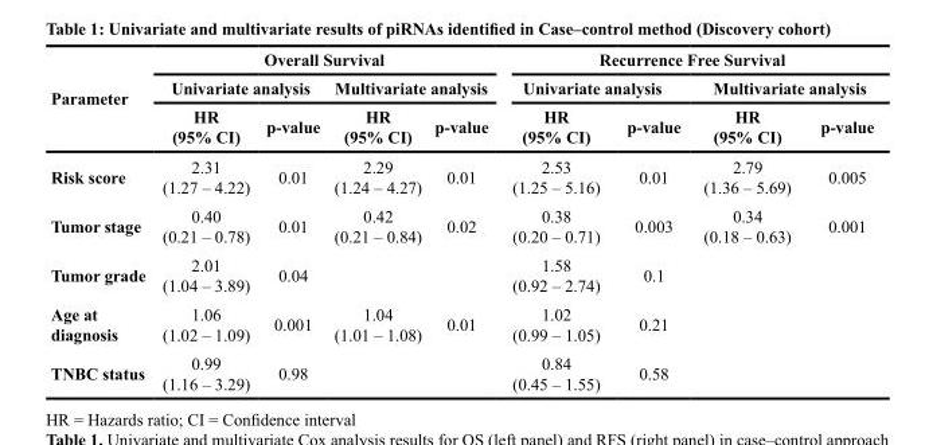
<table><thead><tr><td rowspan="3">Parameter</td><td colspan="4">Overall Survival</td><td colspan="4">Recurrence Free Survival</td></tr><tr><td colspan="2">Univariate analysis</td><td colspan="2">Multivariate analysis</td><td colspan="2">Univariate analysis</td><td colspan="2">Multivariate analysis</td></tr><tr><td>HR (95% CI)</td><td>p-value</td><td>HR (95% CI)</td><td>p-value</td><td>HR (95% CI)</td><td>p-value</td><td>HR (95% CI)</td><td>p-value</td></tr></thead><tbody><tr><td>Risk score</td><td>2.31 (1.27 – 4.22)</td><td>0.01</td><td>2.29 (1.24 – 4.27)</td><td>0.01</td><td>2.53 (1.25 – 5.16)</td><td>0.01</td><td>2.79 (1.36 – 5.69)</td><td>0.005</td></tr><tr><td>Tumor stage</td><td>0.40 (0.21 – 0.78)</td><td>0.01</td><td>0.42 (0.21 – 0.84)</td><td>0.02</td><td>0.38 (0.20 – 0.71)</td><td>0.003</td><td>0.34 (0.18 – 0.63)</td><td>0.001</td></tr><tr><td>Tumor grade</td><td>2.01 (1.04 – 3.89)</td><td>0.04</td><td></td><td></td><td>1.58 (0.92 – 2.74)</td><td>0.1</td><td></td><td></td></tr><tr><td>Age at diagnosis</td><td>1.06 (1.02 – 1.09)</td><td>0.001</td><td>1.04 (1.01 – 1.08)</td><td>0.01</td><td>1.02 (0.99 – 1.05)</td><td>0.21</td><td></td><td></td></tr><tr><td>TNBC status</td><td>0.99 (1.16 – 3.29)</td><td>0.98</td><td></td><td></td><td>0.84 (0.45 – 1.55)</td><td>0.58</td><td></td><td></td></tr></tbody></table>